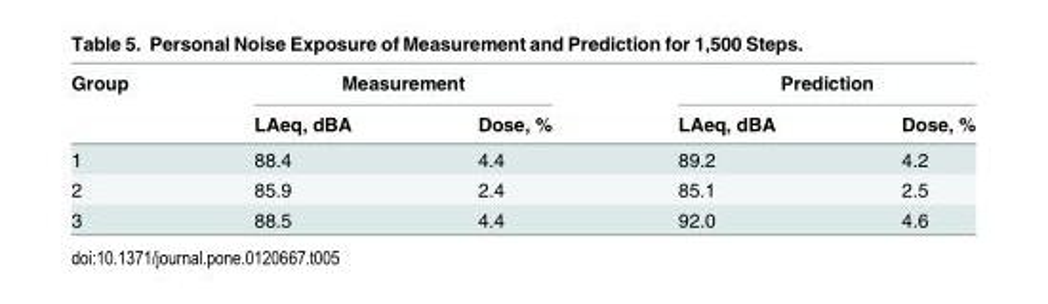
<table><thead><tr><td rowspan="2">Group</td><td colspan="2">Measurement</td><td colspan="2">Prediction</td></tr><tr><td>LAeq, dBA</td><td>Dose, %</td><td>LAeq, dBA</td><td>Dose, %</td></tr></thead><tbody><tr><td>1</td><td>88.4</td><td>4.4</td><td>89.2</td><td>4.2</td></tr><tr><td>2</td><td>85.9</td><td>2.4</td><td>85.1</td><td>2.5</td></tr><tr><td>3</td><td>88.5</td><td>4.4</td><td>92.0</td><td>4.6</td></tr></tbody></table>